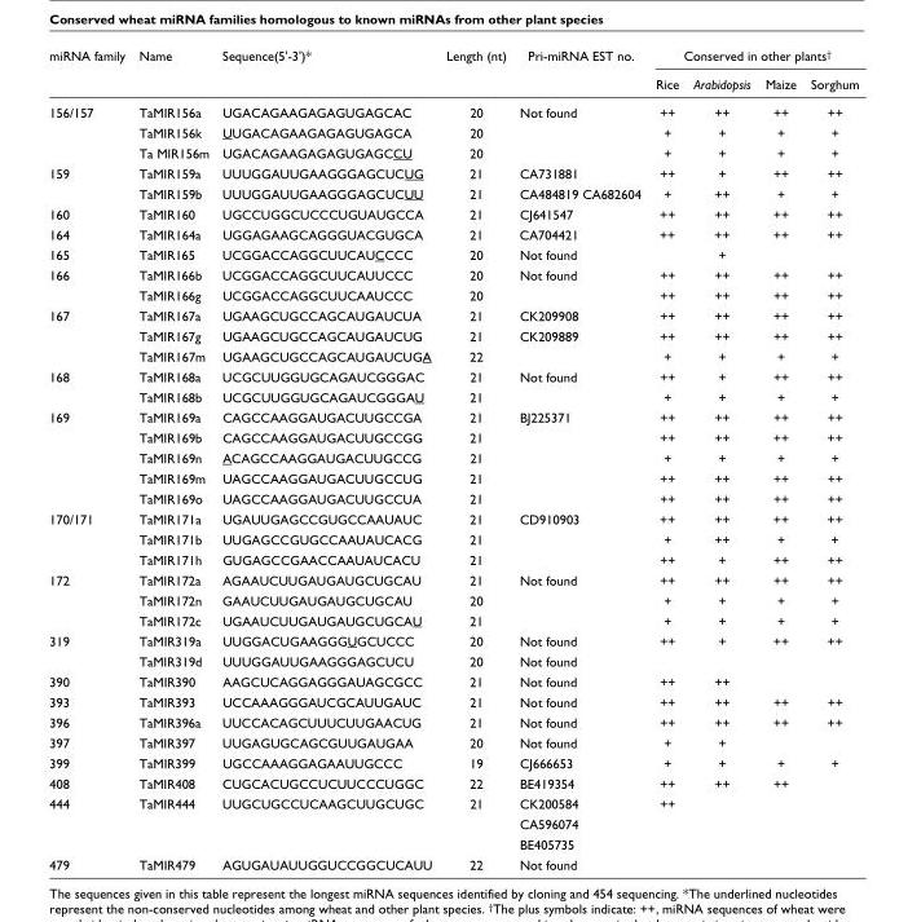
<table><thead><tr><td rowspan="2">miRNA family</td><td rowspan="2">Name</td><td rowspan="2">Sequence(5&#x27;-3&#x27;)*</td><td rowspan="2">Length (nt)</td><td rowspan="2">Pri-miRNA EST no.</td><td colspan="4">Conserved in other plants<sup>†</sup></td></tr><tr><td>Rice</td><td>Arabidopsis</td><td>Maize</td><td>Sorghum</td></tr></thead><tbody><tr><td rowspan="3">156/157</td><td>TaMIR156a</td><td>UGACAGAAGAGAGUGAGCAC</td><td>20</td><td>Not found</td><td>++</td><td>++</td><td>++</td><td>++</td></tr><tr><td>TaMIR156k</td><td>UUGACAGAAGAGAGUGAGCA</td><td>20</td><td></td><td>+</td><td>+</td><td>+</td><td>+</td></tr><tr><td>Ta MIR156m</td><td>UGACAGAAGAGAGUGAGCCU</td><td>20</td><td></td><td>+</td><td>+</td><td>+</td><td>+</td></tr><tr><td rowspan="2">159</td><td>TaMIR159a</td><td>UUUGGAUUGAAGGGAGCUCUG</td><td>21</td><td>CA731881</td><td>++</td><td>+</td><td>++</td><td>++</td></tr><tr><td>TaMIR159b</td><td>UUUGGAUUGAAGGGAGCUCUU</td><td>21</td><td>CA484819 CA682604</td><td>+</td><td>++</td><td>+</td><td>+</td></tr><tr><td>160</td><td>TaMIR160</td><td>UGCCUGGCUCCCUGUAUGCCA</td><td>21</td><td>CJ641547</td><td>++</td><td>++</td><td>++</td><td>++</td></tr><tr><td>164</td><td>TaMIR164a</td><td>UGGAGAAGCAGGGUACGUGCA</td><td>21</td><td>CA704421</td><td>++</td><td>++</td><td>++</td><td>++</td></tr><tr><td>165</td><td>TaMIR165</td><td>UCGGACCAGGCUUCAUCCCC</td><td>20</td><td>Not found</td><td></td><td>+</td><td></td><td></td></tr><tr><td rowspan="2">166</td><td>TaMIR166b</td><td>UCGGACCAGGCUUCAUUCCC</td><td>20</td><td>Not found</td><td>++</td><td>++</td><td>++</td><td>++</td></tr><tr><td>TaMIR166g</td><td>UCGGACCAGGCUUCAAUCCC</td><td>20</td><td></td><td>++</td><td>++</td><td>++</td><td>++</td></tr><tr><td rowspan="3">167</td><td>TaMIR167a</td><td>UGAAGCUGCCAGCAUGAUCUA</td><td>21</td><td>CK209908</td><td>++</td><td>++</td><td>++</td><td>++</td></tr><tr><td>TaMIR167g</td><td>UGAAGCUGCCAGCAUGAUCUG</td><td>21</td><td>CK209889</td><td>++</td><td>++</td><td>++</td><td>++</td></tr><tr><td>TaMIR167m</td><td>UGAAGCUGCCAGCAUGAUCUGA</td><td>22</td><td></td><td>+</td><td>+</td><td>+</td><td>+</td></tr><tr><td rowspan="2">168</td><td>TaMIR168a</td><td>UCGCUUGGUGCAGAUCGGGAC</td><td>21</td><td>Not found</td><td>++</td><td>+</td><td>++</td><td>++</td></tr><tr><td>TaMIR168b</td><td>UCGCUUGGUGCAGAUCGGGAU</td><td>21</td><td></td><td>+</td><td>+</td><td>+</td><td>+</td></tr><tr><td rowspan="5">169</td><td>TaMIR169a</td><td>CAGCCAAGGAUGACUUGCCGA</td><td>21</td><td>BJ225371</td><td>++</td><td>++</td><td>++</td><td>++</td></tr><tr><td>TaMIR169b</td><td>CAGCCAAGGAUGACUUGCCGG</td><td>21</td><td></td><td>++</td><td>++</td><td>++</td><td>++</td></tr><tr><td>TaMIR169n</td><td>ACAGCCAAGGAUGACUUGCCG</td><td>21</td><td></td><td>+</td><td>+</td><td>+</td><td>+</td></tr><tr><td>TaMIR169m</td><td>UAGCCAAGGAUGACUUGCCUG</td><td>21</td><td></td><td>++</td><td>++</td><td>++</td><td>++</td></tr><tr><td>TaMIR169o</td><td>UAGCCAAGGAUGACUUGCCUA</td><td>21</td><td></td><td>++</td><td>++</td><td>++</td><td>++</td></tr><tr><td rowspan="3">170/171</td><td>TaMIR171a</td><td>UGAUUGAGCCGUGCCAAUAUC</td><td>21</td><td>CD910903</td><td>++</td><td>++</td><td>++</td><td>++</td></tr><tr><td>TaMIR171b</td><td>UUGAGCCGUGCCAAUAUCACG</td><td>21</td><td></td><td>+</td><td>++</td><td>+</td><td>+</td></tr><tr><td>TaMIR171h</td><td>GUGAGCCGAACCAAUAUCACU</td><td>21</td><td></td><td>++</td><td>+</td><td>++</td><td>++</td></tr><tr><td rowspan="3">172</td><td>TaMIR172a</td><td>AGAAUCUUGAUGAUGCUGCAU</td><td>21</td><td>Not found</td><td>++</td><td>++</td><td>++</td><td>++</td></tr><tr><td>TaMIR172n</td><td>GAAUCUUGAUGAUGCUGCAU</td><td>20</td><td></td><td>+</td><td>+</td><td>+</td><td>+</td></tr><tr><td>TaMIR172c</td><td>UGAAUCUUGAUGAUGCUGCAU</td><td>21</td><td></td><td>+</td><td>+</td><td>+</td><td>+</td></tr><tr><td rowspan="2">319</td><td>TaMIR319a</td><td>UUGGACUGAAGGGUGCUCCC</td><td>20</td><td>Not found</td><td>++</td><td>+</td><td>++</td><td>++</td></tr><tr><td>TaMIR319d</td><td>UUUGGAUUGAAGGGAGCUCU</td><td>20</td><td>Not found</td><td></td><td></td><td></td><td></td></tr><tr><td>390</td><td>TaMIR390</td><td>AAGCUCAGGAGGGAUAGCGCC</td><td>21</td><td>Not found</td><td>++</td><td>++</td><td></td><td></td></tr><tr><td>393</td><td>TaMIR393</td><td>UCCAAAGGGAUCGCAUUGAUC</td><td>21</td><td>Not found</td><td>++</td><td>++</td><td>++</td><td>++</td></tr><tr><td>396</td><td>TaMIR396a</td><td>UUCCACAGCUUUCUUGAACUG</td><td>21</td><td>Not found</td><td>++</td><td>++</td><td>++</td><td>++</td></tr><tr><td>397</td><td>TaMIR397</td><td>UUGAGUGCAGCGUUGAUGAA</td><td>20</td><td>Not found</td><td>+</td><td>+</td><td></td><td></td></tr><tr><td>399</td><td>TaMIR399</td><td>UGCCAAAGGAGAAUUGCCC</td><td>19</td><td>CJ666653</td><td>+</td><td>+</td><td>+</td><td>+</td></tr><tr><td>408</td><td>TaMIR408</td><td>CUGCACUGCCUCUUCCCUGGC</td><td>22</td><td>BE419354</td><td>++</td><td>++</td><td>++</td><td></td></tr><tr><td rowspan="3">444</td><td>TaMIR444</td><td>UUGCUGCCUCAAGCUUGCUGC</td><td>21</td><td>CK200584</td><td>++</td><td></td><td></td><td></td></tr><tr><td></td><td></td><td></td><td>CA596074</td><td></td><td></td><td></td><td></td></tr><tr><td></td><td></td><td></td><td>BE405735</td><td></td><td></td><td></td><td></td></tr><tr><td>479</td><td>TaMIR479</td><td>AGUGAUAUUGGUCCGGCUCAUU</td><td>22</td><td>Not found</td><td></td><td></td><td></td><td></td></tr></tbody></table>